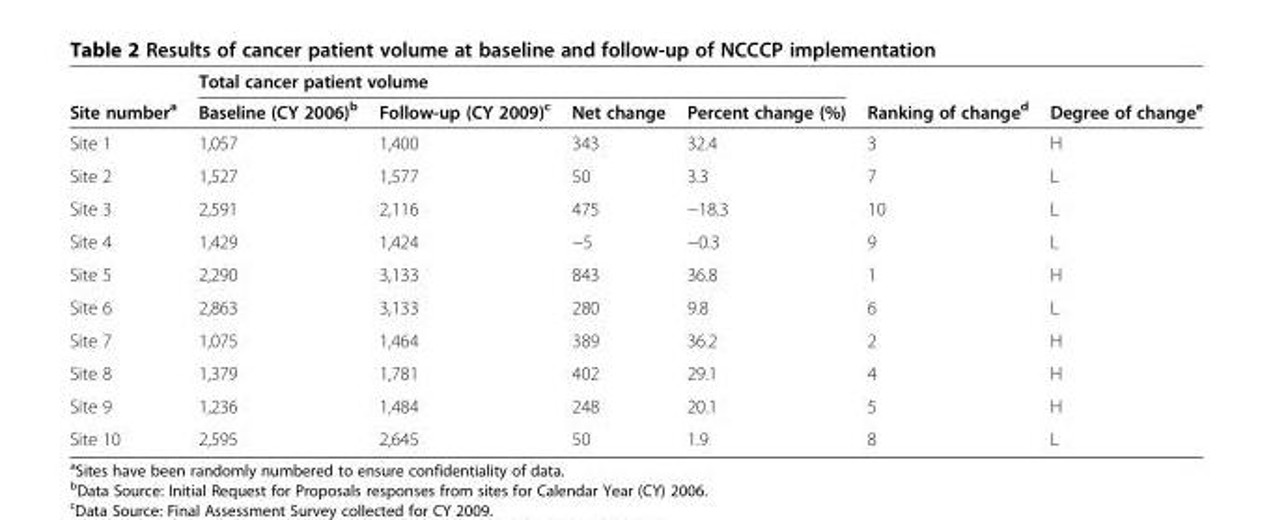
<table><thead><tr><td rowspan="2">Site number<sup>a</sup></td><td colspan="4">Total cancer patient volume</td><td rowspan="2">Ranking of change<sup>d</sup></td><td rowspan="2">Degree of change<sup>e</sup></td></tr><tr><td>Baseline (CY 2006)<sup>b</sup></td><td>Follow-up (CY 2009)<sup>c</sup></td><td>Net change</td><td>Percent change (%)</td></tr></thead><tbody><tr><td>Site 1</td><td>1,057</td><td>1,400</td><td>343</td><td>32.4</td><td>3</td><td>H</td></tr><tr><td>Site 2</td><td>1,527</td><td>1,577</td><td>50</td><td>3.3</td><td>7</td><td>L</td></tr><tr><td>Site 3</td><td>2,591</td><td>2,116</td><td>475</td><td>−18.3</td><td>10</td><td>L</td></tr><tr><td>Site 4</td><td>1,429</td><td>1,424</td><td>−5</td><td>−0.3</td><td>9</td><td>L</td></tr><tr><td>Site 5</td><td>2,290</td><td>3,133</td><td>843</td><td>36.8</td><td>1</td><td>H</td></tr><tr><td>Site 6</td><td>2,863</td><td>3,133</td><td>280</td><td>9.8</td><td>6</td><td>L</td></tr><tr><td>Site 7</td><td>1,075</td><td>1,464</td><td>389</td><td>36.2</td><td>2</td><td>H</td></tr><tr><td>Site 8</td><td>1,379</td><td>1,781</td><td>402</td><td>29.1</td><td>4</td><td>H</td></tr><tr><td>Site 9</td><td>1,236</td><td>1,484</td><td>248</td><td>20.1</td><td>5</td><td>H</td></tr><tr><td>Site 10</td><td>2,595</td><td>2,645</td><td>50</td><td>1.9</td><td>8</td><td>L</td></tr></tbody></table>